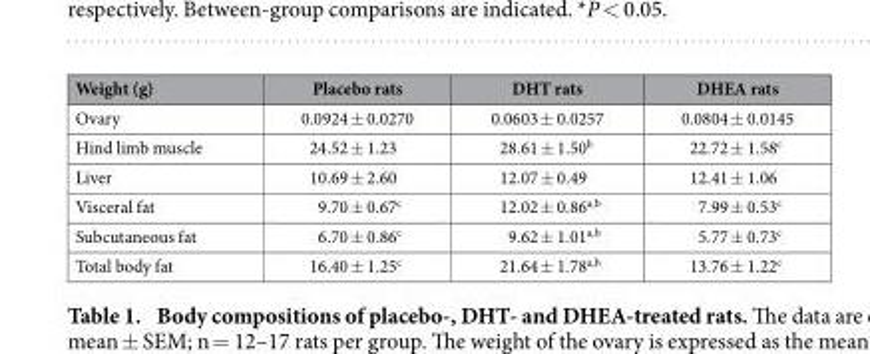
<table><thead><tr><td>Weight (g)</td><td>Placebo rats</td><td>DHT rats</td><td>DHEA rats</td></tr></thead><tbody><tr><td>Ovary</td><td>0.0924 ± 0.0270</td><td>0.0603 ± 0.0257</td><td>0.0804 ± 0.0145</td></tr><tr><td>Hind limb muscle</td><td>24.52 ± 1.23</td><td>28.61 ± 1.50<sup>b</sup></td><td>22.72 ± 1.58<sup>c</sup></td></tr><tr><td>Liver</td><td>10.69 ± 2.60</td><td>12.07 ± 0.49</td><td>12.41 ± 1.06</td></tr><tr><td>Visceral fat</td><td>9.70 ± 0.67<sup>c</sup></td><td>12.02 ± 0.86<sup>a,b</sup></td><td>7.99 ± 0.53<sup>c</sup></td></tr><tr><td>Subcutaneous fat</td><td>6.70 ± 0.86<sup>c</sup></td><td>9.62 ± 1.01<sup>a,b</sup></td><td>5.77 ± 0.73<sup>c</sup></td></tr><tr><td>Total body fat</td><td>16.40 ± 1.25<sup>c</sup></td><td>21.64 ± 1.78<sup>a,b</sup></td><td>13.76 ± 1.22<sup>c</sup></td></tr></tbody></table>